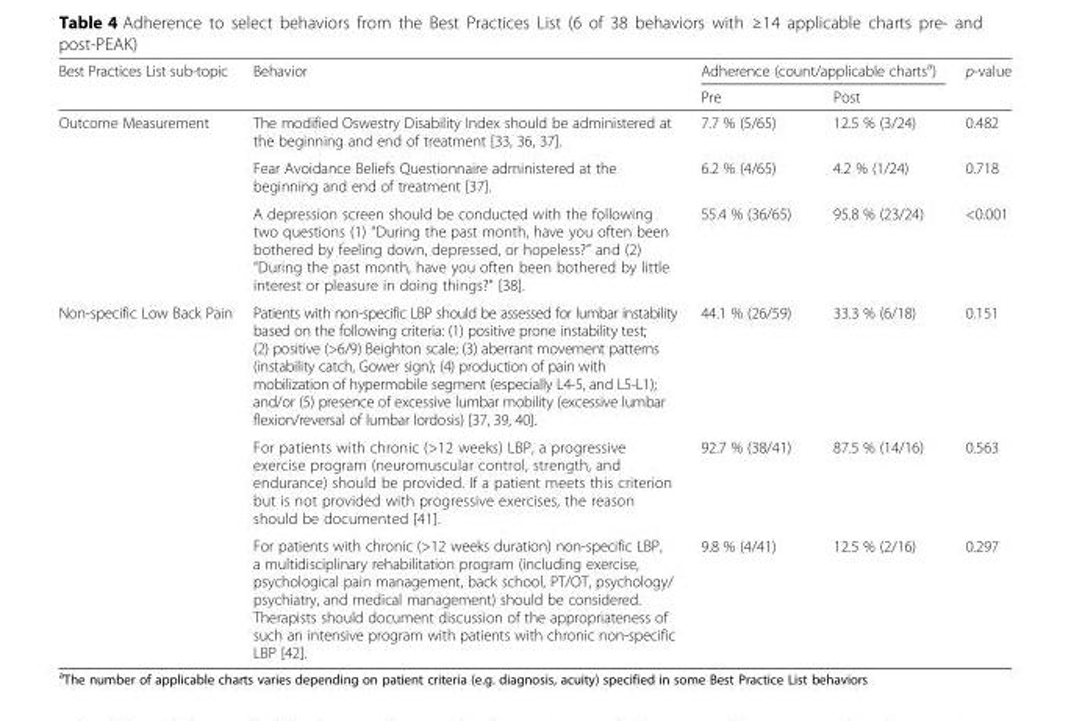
<table><thead><tr><td rowspan="2">Best Practices List sub-topic</td><td rowspan="2">Behavior</td><td colspan="2">Adherence (count/applicable charts<sup>a</sup>)</td><td rowspan="2">p-value</td></tr><tr><td>Pre</td><td>Post</td></tr></thead><tbody><tr><td rowspan="3">Outcome Measurement</td><td>The modified Oswestry Disability Index should be administered at the beginning and end of treatment [33, 36, 37].</td><td>7.7 % (5/65)</td><td>12.5 % (3/24)</td><td>0.482</td></tr><tr><td>Fear Avoidance Beliefs Questionnaire administered at the beginning and end of treatment [37].</td><td>6.2 % (4/65)</td><td>4.2 % (1/24)</td><td>0.718</td></tr><tr><td>A depression screen should be conducted with the following two questions (1) “During the past month, have you often been bothered by feeling down, depressed, or hopeless?” and (2) “During the past month, have you often been bothered by little interest or pleasure in doing things?” [38].</td><td>55.4 % (36/65)</td><td>95.8 % (23/24)</td><td>&lt;0.001</td></tr><tr><td rowspan="3">Non-specific Low Back Pain</td><td>Patients with non-specific LBP should be assessed for lumbar instability based on the following criteria: (1) positive prone instability test; (2) positive (&gt;6/9) Beighton scale; (3) aberrant movement patterns (instability catch, Gower sign); (4) production of pain with mobilization of hypermobile segment (especially L4-5, and L5-L1); and/or (5) presence of excessive lumbar mobility (excessive lumbar flexion/reversal of lumbar lordosis) [37, 39, 40].</td><td>44.1 % (26/59)</td><td>33.3 % (6/18)</td><td>0.151</td></tr><tr><td>For patients with chronic (&gt;12 weeks) LBP, a progressive exercise program (neuromuscular control, strength, and endurance) should be provided. If a patient meets this criterion but is not provided with progressive exercises, the reason should be documented [41].</td><td>92.7 % (38/41)</td><td>87.5 % (14/16)</td><td>0.563</td></tr><tr><td>For patients with chronic (&gt;12 weeks duration) non-specific LBP, a multidisciplinary rehabilitation program (including exercise, psychological pain management, back school, PT/OT, psychology/ psychiatry, and medical management) should be considered. Therapists should document discussion of the appropriateness of such an intensive program with patients with chronic non-specific LBP [42].</td><td>9.8 % (4/41)</td><td>12.5 % (2/16)</td><td>0.297</td></tr></tbody></table>